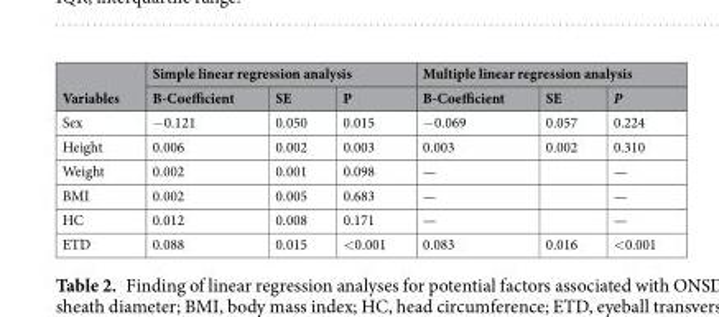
<table><thead><tr><td rowspan="2">Variables</td><td colspan="3">Simple linear regression analysis</td><td colspan="3">Multiple linear regression analysis</td></tr><tr><td>B-Coefficient</td><td>SE</td><td>P</td><td>B-Coefficient</td><td>SE</td><td>P</td></tr></thead><tbody><tr><td>Sex</td><td>−0.121</td><td>0.050</td><td>0.015</td><td>−0.069</td><td>0.057</td><td>0.224</td></tr><tr><td>Height</td><td>0.006</td><td>0.002</td><td>0.003</td><td>0.003</td><td>0.002</td><td>0.310</td></tr><tr><td>Weight</td><td>0.002</td><td>0.001</td><td>0.098</td><td>—</td><td></td><td>—</td></tr><tr><td>BMI</td><td>0.002</td><td>0.005</td><td>0.683</td><td>—</td><td></td><td>—</td></tr><tr><td>HC</td><td>0.012</td><td>0.008</td><td>0.171</td><td>—</td><td></td><td>—</td></tr><tr><td>ETD</td><td>0.088</td><td>0.015</td><td>&lt;0.001</td><td>0.083</td><td>0.016</td><td>&lt;0.001</td></tr></tbody></table>